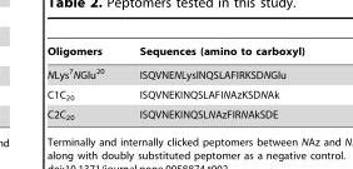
<table><thead><tr><td>Oligomers</td><td>Sequences (amino to carboxyl)</td></tr></thead><tbody><tr><td>NLys<sup>7</sup>NGlu<sup>20</sup></td><td>ISQVNENLysINQSLAFIRKSDNGlu</td></tr><tr><td>C1C<sub>20</sub></td><td>ISQVNEKINQSLAFINAzKSDNAk</td></tr><tr><td>C2C<sub>20</sub></td><td>ISQVNEKINQSLNAzFIRNAkSDE</td></tr></tbody></table>